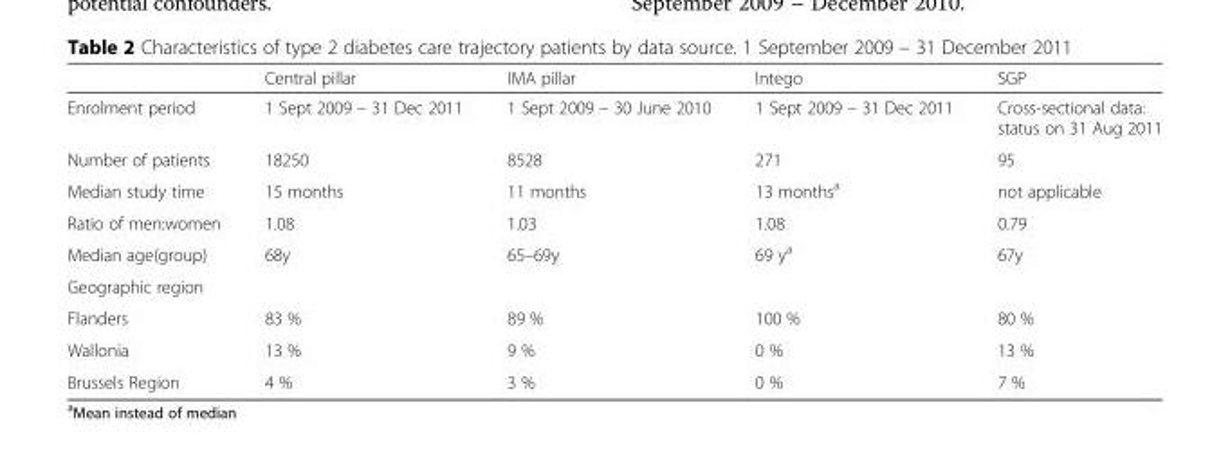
<table><thead><tr><td></td><td>Central pillar</td><td>IMA pillar</td><td>Intego</td><td>SGP</td></tr></thead><tbody><tr><td>Enrolment period</td><td>1 Sept 2009 – 31 Dec 2011</td><td>1 Sept 2009 – 30 June 2010</td><td>1 Sept 2009 – 31 Dec 2011</td><td>Cross-sectional data: status on 31 Aug 2011</td></tr><tr><td>Number of patients</td><td>18250</td><td>8528</td><td>271</td><td>95</td></tr><tr><td>Median study time</td><td>15 months</td><td>11 months</td><td>13 months<sup>a</sup></td><td>not applicable</td></tr><tr><td>Ratio of men:women</td><td>1.08</td><td>1.03</td><td>1.08</td><td>0.79</td></tr><tr><td>Median age(group)</td><td>68y</td><td>65–69y</td><td>69 y<sup>a</sup></td><td>67y</td></tr><tr><td colspan="5">Geographic region</td></tr><tr><td>Flanders</td><td>83 %</td><td>89 %</td><td>100 %</td><td>80 %</td></tr><tr><td>Wallonia</td><td>13 %</td><td>9 %</td><td>0 %</td><td>13 %</td></tr><tr><td>Brussels Region</td><td>4 %</td><td>3 %</td><td>0 %</td><td>7 %</td></tr></tbody></table>